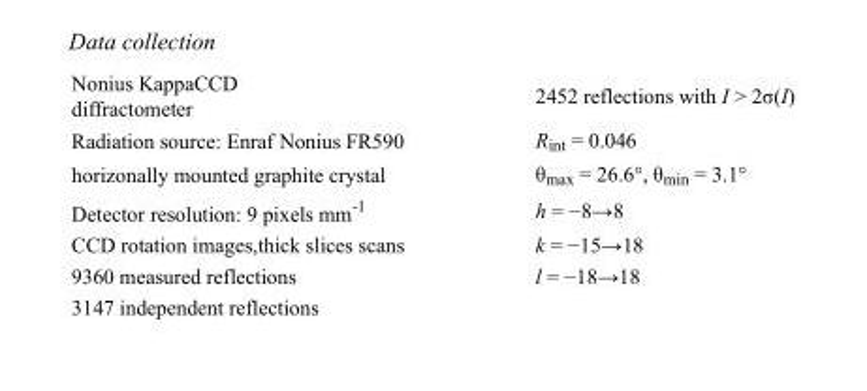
<table><tbody><tr><td>Nonius KappaCCD diffractometer</td><td>2452 reflections with I &gt; 2σ(I)</td></tr><tr><td>Radiation source: Enraf Nonius FR590</td><td>R<sub>int</sub> = 0.046</td></tr><tr><td>horizonally mounted graphite crystal</td><td>θ<sub>max</sub> = 26.6°, θ<sub>min</sub> = 3.1°</td></tr><tr><td>Detector resolution: 9 pixels mm<sup>-1</sup></td><td>h = −8→8</td></tr><tr><td>CCD rotation images,thick slices scans</td><td>k = −15→18</td></tr><tr><td>9360 measured reflections</td><td>l = −18→18</td></tr><tr><td>3147 independent reflections</td><td></td></tr></tbody></table>